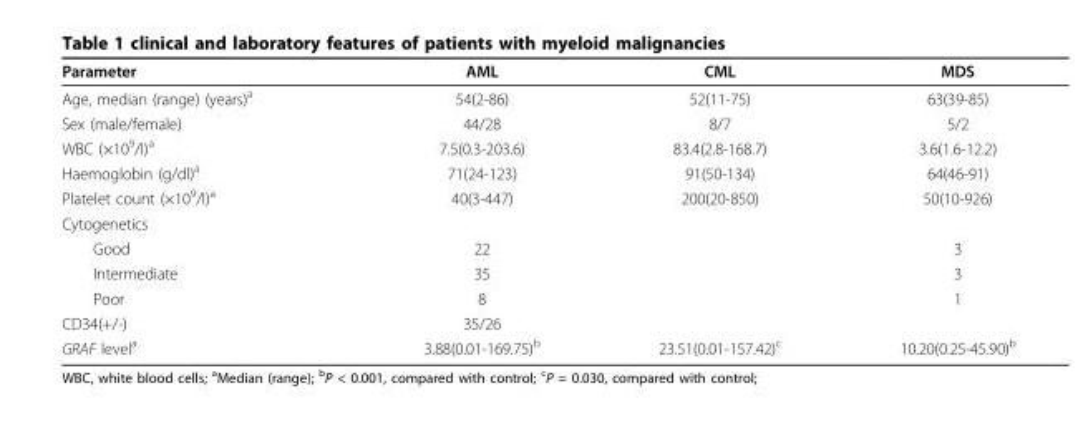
<table><thead><tr><td>Parameter</td><td>AML</td><td>CML</td><td>MDS</td></tr></thead><tbody><tr><td>Age, median (range) (years)<sup>a</sup></td><td>54(2-86)</td><td>52(11-75)</td><td>63(39-85)</td></tr><tr><td>Sex (male/female)</td><td>44/28</td><td>8/7</td><td>5/2</td></tr><tr><td>WBC (×10<sup>9</sup>/l)<sup>a</sup></td><td>7.5(0.3-203.6)</td><td>83.4(2.8-168.7)</td><td>3.6(1.6-12.2)</td></tr><tr><td>Haemoglobin (g/dl)<sup>a</sup></td><td>71(24-123)</td><td>91(50-134)</td><td>64(46-91)</td></tr><tr><td>Platelet count (×10<sup>9</sup>/l)<sup>a</sup></td><td>40(3-447)</td><td>200(20-850)</td><td>50(10-926)</td></tr><tr><td colspan="4">Cytogenetics</td></tr><tr><td>Good</td><td>22</td><td></td><td>3</td></tr><tr><td>Intermediate</td><td>35</td><td></td><td>3</td></tr><tr><td>Poor</td><td>8</td><td></td><td>1</td></tr><tr><td>CD34(+/-)</td><td>35/26</td><td></td><td></td></tr><tr><td>GRAF level<sup>a</sup></td><td>3.88(0.01-169.75)<sup>b</sup></td><td>23.51(0.01-157.42)<sup>c</sup></td><td>10.20(0.25-45.90)<sup>b</sup></td></tr></tbody></table>